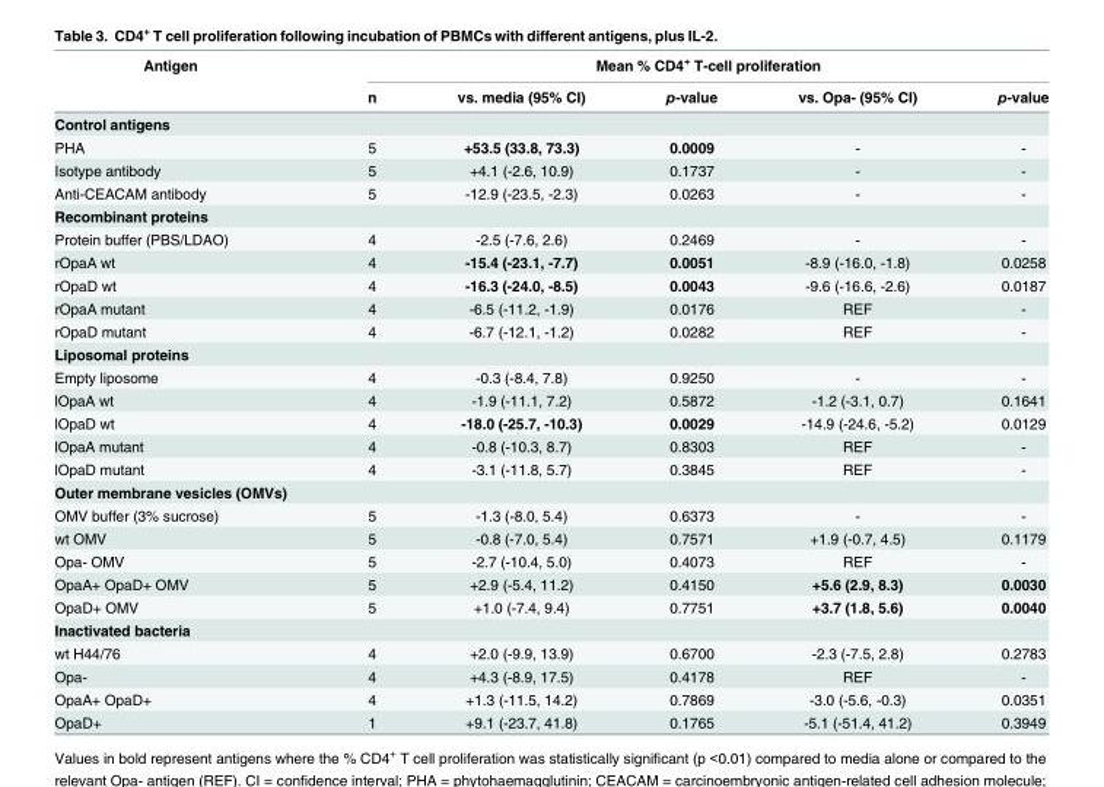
<table><thead><tr><td rowspan="2">Antigen</td><td colspan="5">Mean % CD4<sup>+</sup> T-cell proliferation</td></tr><tr><td>n</td><td>vs. media (95% CI)</td><td>p-value</td><td>vs. Opa- (95% CI)</td><td>p-value</td></tr></thead><tbody><tr><td colspan="6">Control antigens</td></tr><tr><td>PHA</td><td>5</td><td>+53.5 (33.8, 73.3)</td><td>0.0009</td><td>-</td><td>-</td></tr><tr><td>Isotype antibody</td><td>5</td><td>+4.1 (-2.6, 10.9)</td><td>0.1737</td><td>-</td><td>-</td></tr><tr><td>Anti-CEACAM antibody</td><td>5</td><td>-12.9 (-23.5, -2.3)</td><td>0.0263</td><td>-</td><td>-</td></tr><tr><td colspan="6">Recombinant proteins</td></tr><tr><td>Protein buffer (PBS/LDAO)</td><td>4</td><td>-2.5 (-7.6, 2.6)</td><td>0.2469</td><td>-</td><td>-</td></tr><tr><td>rOpaA wt</td><td>4</td><td>-15.4 (-23.1, -7.7)</td><td>0.0051</td><td>-8.9 (-16.0, -1.8)</td><td>0.0258</td></tr><tr><td>rOpaD wt</td><td>4</td><td>-16.3 (-24.0, -8.5)</td><td>0.0043</td><td>-9.6 (-16.6, -2.6)</td><td>0.0187</td></tr><tr><td>rOpaA mutant</td><td>4</td><td>-6.5 (-11.2, -1.9)</td><td>0.0176</td><td>REF</td><td>-</td></tr><tr><td>rOpaD mutant</td><td>4</td><td>-6.7 (-12.1, -1.2)</td><td>0.0282</td><td>REF</td><td>-</td></tr><tr><td colspan="6">Liposomal proteins</td></tr><tr><td>Empty liposome</td><td>4</td><td>-0.3 (-8.4, 7.8)</td><td>0.9250</td><td>-</td><td>-</td></tr><tr><td>lOpaA wt</td><td>4</td><td>-1.9 (-11.1, 7.2)</td><td>0.5872</td><td>-1.2 (-3.1, 0.7)</td><td>0.1641</td></tr><tr><td>lOpaD wt</td><td>4</td><td>-18.0 (-25.7, -10.3)</td><td>0.0029</td><td>-14.9 (-24.6, -5.2)</td><td>0.0129</td></tr><tr><td>lOpaA mutant</td><td>4</td><td>-0.8 (-10.3, 8.7)</td><td>0.8303</td><td>REF</td><td>-</td></tr><tr><td>lOpaD mutant</td><td>4</td><td>-3.1 (-11.8, 5.7)</td><td>0.3845</td><td>REF</td><td>-</td></tr><tr><td colspan="6">Outer membrane vesicles (OMVs)</td></tr><tr><td>OMV buffer (3% sucrose)</td><td>5</td><td>-1.3 (-8.0, 5.4)</td><td>0.6373</td><td>-</td><td>-</td></tr><tr><td>wt OMV</td><td>5</td><td>-0.8 (-7.0, 5.4)</td><td>0.7571</td><td>+1.9 (-0.7, 4.5)</td><td>0.1179</td></tr><tr><td>Opa- OMV</td><td>5</td><td>-2.7 (-10.4, 5.0)</td><td>0.4073</td><td>REF</td><td>-</td></tr><tr><td>OpaA+ OpaD+ OMV</td><td>5</td><td>+2.9 (-5.4, 11.2)</td><td>0.4150</td><td>+5.6 (2.9, 8.3)</td><td>0.0030</td></tr><tr><td>OpaD+ OMV</td><td>5</td><td>+1.0 (-7.4, 9.4)</td><td>0.7751</td><td>+3.7 (1.8, 5.6)</td><td>0.0040</td></tr><tr><td colspan="6">Inactivated bacteria</td></tr><tr><td>wt H44/76</td><td>4</td><td>+2.0 (-9.9, 13.9)</td><td>0.6700</td><td>-2.3 (-7.5, 2.8)</td><td>0.2783</td></tr><tr><td>Opa-</td><td>4</td><td>+4.3 (-8.9, 17.5)</td><td>0.4178</td><td>REF</td><td>-</td></tr><tr><td>OpaA+ OpaD+</td><td>4</td><td>+1.3 (-11.5, 14.2)</td><td>0.7869</td><td>-3.0 (-5.6, -0.3)</td><td>0.0351</td></tr><tr><td>OpaD+</td><td>1</td><td>+9.1 (-23.7, 41.8)</td><td>0.1765</td><td>-5.1 (-51.4, 41.2)</td><td>0.3949</td></tr></tbody></table>